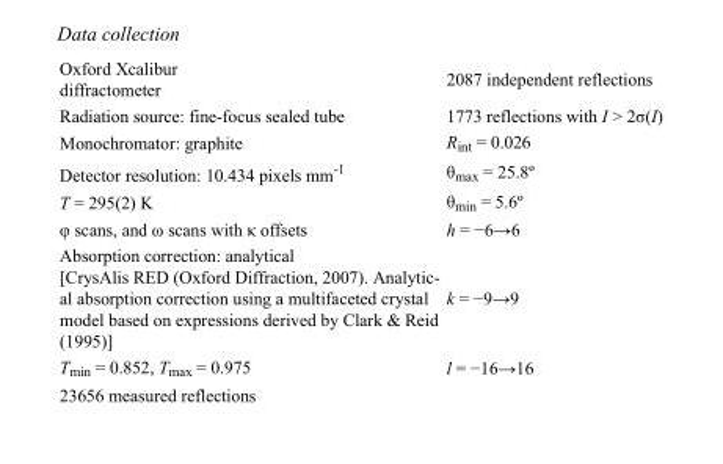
<table><tbody><tr><td>Oxford Xcalibur diffractometer</td><td>2087 independent reflections</td></tr><tr><td>Radiation source: fine-focus sealed tube</td><td>1773 reflections with I &gt; 2σ(I)</td></tr><tr><td>Monochromator: graphite</td><td>R<sub>int</sub> = 0.026</td></tr><tr><td>Detector resolution: 10.434 pixels mm<sup>-1</sup></td><td>θ<sub>max</sub> = 25.8º</td></tr><tr><td>T = 295(2) K</td><td>θ<sub>min</sub> = 5.6º</td></tr><tr><td>φ scans, and ω scans with κ offsets</td><td>h = −6→6</td></tr><tr><td>Absorption correction: analytical [CrysAlis RED (Oxford Diffraction, 2007). Analytic- al absorption correction using a multifaceted crystal model based on expressions derived by Clark &amp; Reid (1995)]</td><td>k = −9→9</td></tr><tr><td>T<sub>min</sub> = 0.852, T<sub>max</sub> = 0.975</td><td>l = −16→16</td></tr><tr><td>23656 measured reflections</td><td></td></tr></tbody></table>